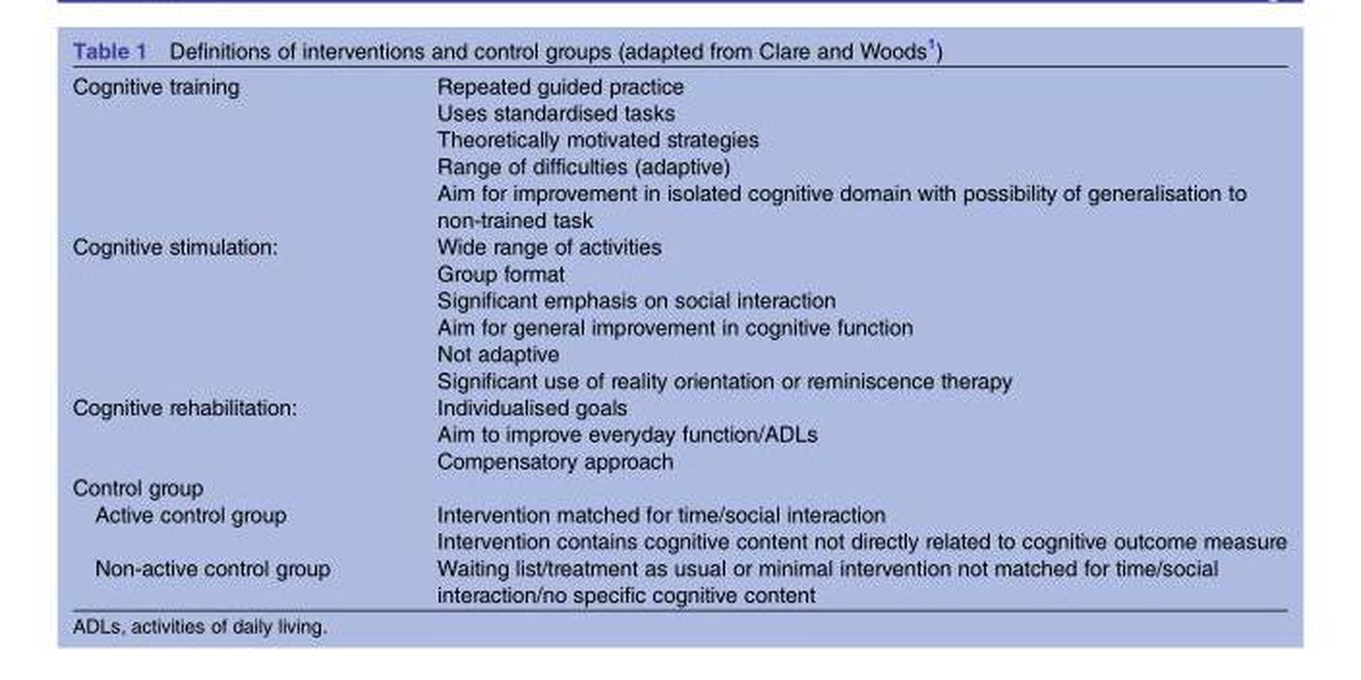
<table><tbody><tr><td rowspan="5">Cognitive training</td><td>Repeated guided practice</td></tr><tr><td>Uses standardised tasks</td></tr><tr><td>Theoretically motivated strategies</td></tr><tr><td>Range of difficulties (adaptive)</td></tr><tr><td>Aim for improvement in isolated cognitive domain with possibility of generalisation to non-trained task</td></tr><tr><td rowspan="6">Cognitive stimulation:</td><td>Wide range of activities</td></tr><tr><td>Group format</td></tr><tr><td>Significant emphasis on social interaction</td></tr><tr><td>Aim for general improvement in cognitive function</td></tr><tr><td>Not adaptive</td></tr><tr><td>Significant use of reality orientation or reminiscence therapy</td></tr><tr><td rowspan="3">Cognitive rehabilitation:</td><td>Individualised goals</td></tr><tr><td>Aim to improve everyday function/ADLs</td></tr><tr><td>Compensatory approach</td></tr><tr><td colspan="2">Control group</td></tr><tr><td>Active control group</td><td>Intervention matched for time/social interaction Intervention contains cognitive content not directly related to cognitive outcome measure</td></tr><tr><td>Non-active control group</td><td>Waiting list/treatment as usual or minimal intervention not matched for time/social interaction/no specific cognitive content</td></tr></tbody></table>